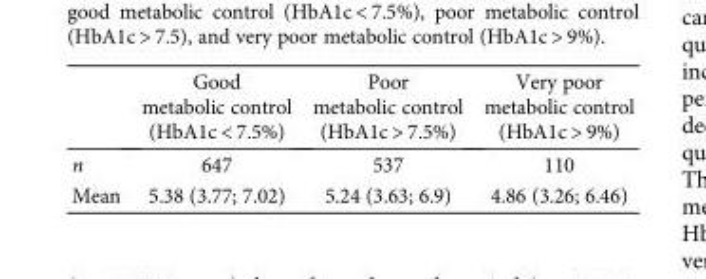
<table><thead><tr><td></td><td>Good metabolic control (HbA1c &lt; 7.5%)</td><td>Poor metabolic control (HbA1c &gt; 7.5%)</td><td>Very poor metabolic control (HbA1c &gt; 9%)</td></tr></thead><tbody><tr><td>n</td><td>647</td><td>537</td><td>110</td></tr><tr><td>Mean</td><td>5.38 (3.77; 7.02)</td><td>5.24 (3.63; 6.9)</td><td>4.86 (3.26; 6.46)</td></tr></tbody></table>